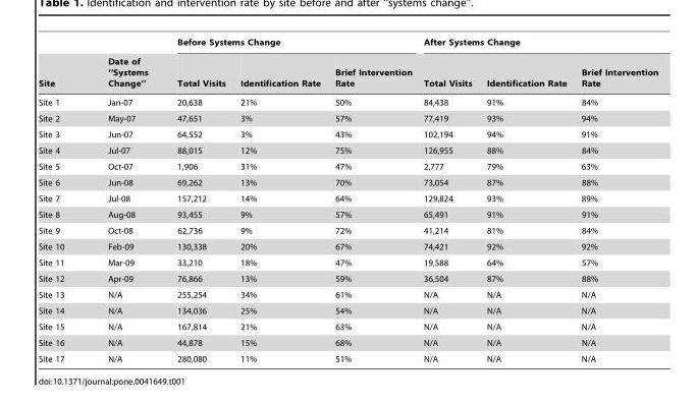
<table><thead><tr><td rowspan="2">Site</td><td rowspan="2">Date of ‘‘Systems Change’’</td><td colspan="3">Before Systems Change</td><td colspan="3">After Systems Change</td></tr><tr><td>Total Visits</td><td>Identification Rate</td><td>Brief Intervention Rate</td><td>Total Visits</td><td>Identification Rate</td><td>Brief Intervention Rate</td></tr></thead><tbody><tr><td>Site 1</td><td>Jan-07</td><td>20,638</td><td>21%</td><td>50%</td><td>84,438</td><td>91%</td><td>84%</td></tr><tr><td>Site 2</td><td>May-07</td><td>47,651</td><td>3%</td><td>57%</td><td>77,419</td><td>93%</td><td>94%</td></tr><tr><td>Site 3</td><td>Jun-07</td><td>64,552</td><td>3%</td><td>43%</td><td>102,194</td><td>94%</td><td>91%</td></tr><tr><td>Site 4</td><td>Jul-07</td><td>88,015</td><td>12%</td><td>75%</td><td>126,955</td><td>88%</td><td>84%</td></tr><tr><td>Site 5</td><td>Oct-07</td><td>1,906</td><td>31%</td><td>47%</td><td>2,777</td><td>79%</td><td>63%</td></tr><tr><td>Site 6</td><td>Jun-08</td><td>69,262</td><td>13%</td><td>70%</td><td>73,054</td><td>87%</td><td>88%</td></tr><tr><td>Site 7</td><td>Jul-08</td><td>157,212</td><td>14%</td><td>64%</td><td>129,824</td><td>93%</td><td>89%</td></tr><tr><td>Site 8</td><td>Aug-08</td><td>93,455</td><td>9%</td><td>57%</td><td>65,491</td><td>91%</td><td>91%</td></tr><tr><td>Site 9</td><td>Oct-08</td><td>62,736</td><td>9%</td><td>72%</td><td>41,214</td><td>81%</td><td>84%</td></tr><tr><td>Site 10</td><td>Feb-09</td><td>130,338</td><td>20%</td><td>67%</td><td>74,421</td><td>92%</td><td>92%</td></tr><tr><td>Site 11</td><td>Mar-09</td><td>33,210</td><td>18%</td><td>47%</td><td>19,588</td><td>64%</td><td>57%</td></tr><tr><td>Site 12</td><td>Apr-09</td><td>76,866</td><td>13%</td><td>59%</td><td>36,504</td><td>87%</td><td>88%</td></tr><tr><td>Site 13</td><td>N/A</td><td>255,254</td><td>34%</td><td>61%</td><td>N/A</td><td>N/A</td><td>N/A</td></tr><tr><td>Site 14</td><td>N/A</td><td>134,036</td><td>25%</td><td>54%</td><td>N/A</td><td>N/A</td><td>N/A</td></tr><tr><td>Site 15</td><td>N/A</td><td>167,814</td><td>21%</td><td>63%</td><td>N/A</td><td>N/A</td><td>N/A</td></tr><tr><td>Site 16</td><td>N/A</td><td>44,878</td><td>15%</td><td>68%</td><td>N/A</td><td>N/A</td><td>N/A</td></tr><tr><td>Site 17</td><td>N/A</td><td>280,080</td><td>11%</td><td>51%</td><td>N/A</td><td>N/A</td><td>N/A</td></tr></tbody></table>